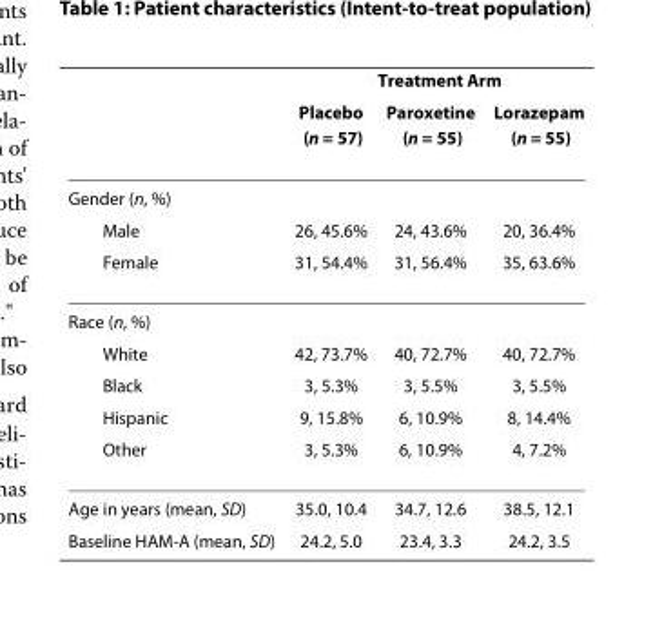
<table><thead><tr><td rowspan="2"></td><td colspan="3">Treatment Arm</td></tr><tr><td>Placebo (n = 57)</td><td>Paroxetine (n = 55)</td><td>Lorazepam (n = 55)</td></tr></thead><tbody><tr><td colspan="4">Gender (n, %)</td></tr><tr><td>Male</td><td>26, 45.6%</td><td>24, 43.6%</td><td>20, 36.4%</td></tr><tr><td>Female</td><td>31, 54.4%</td><td>31, 56.4%</td><td>35, 63.6%</td></tr><tr><td colspan="4">Race (n, %)</td></tr><tr><td>White</td><td>42, 73.7%</td><td>40, 72.7%</td><td>40, 72.7%</td></tr><tr><td>Black</td><td>3, 5.3%</td><td>3, 5.5%</td><td>3, 5.5%</td></tr><tr><td>Hispanic</td><td>9, 15.8%</td><td>6, 10.9%</td><td>8, 14.4%</td></tr><tr><td>Other</td><td>3, 5.3%</td><td>6, 10.9%</td><td>4, 7.2%</td></tr><tr><td>Age in years (mean, SD)</td><td>35.0, 10.4</td><td>34.7, 12.6</td><td>38.5, 12.1</td></tr><tr><td>Baseline HAM-A (mean, SD)</td><td>24.2, 5.0</td><td>23.4, 3.3</td><td>24.2, 3.5</td></tr></tbody></table>